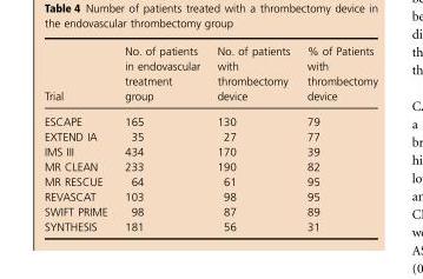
<table><thead><tr><td>Trial</td><td>No. of patients in endovascular treatment group</td><td>No. of patients with thrombectomy device</td><td>% of Patients with thrombectomy device</td></tr></thead><tbody><tr><td>ESCAPE</td><td>165</td><td>130</td><td>79</td></tr><tr><td>EXTEND IA</td><td>35</td><td>27</td><td>77</td></tr><tr><td>IMS III</td><td>434</td><td>170</td><td>39</td></tr><tr><td>MR CLEAN</td><td>233</td><td>190</td><td>82</td></tr><tr><td>MR RESCUE</td><td>64</td><td>61</td><td>95</td></tr><tr><td>REVASCAT</td><td>103</td><td>98</td><td>95</td></tr><tr><td>SWIFT PRIME</td><td>98</td><td>87</td><td>89</td></tr><tr><td>SYNTHESIS</td><td>181</td><td>56</td><td>31</td></tr></tbody></table>